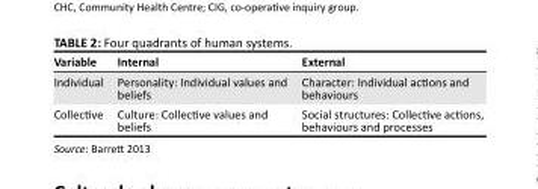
<table><thead><tr><td>Variable</td><td>Internal</td><td>External</td></tr></thead><tbody><tr><td>Individual</td><td>Personality: Individual values and beliefs</td><td>Character: Individual actions and behaviours</td></tr><tr><td>Collective</td><td>Culture: Collective values and beliefs</td><td>Social structures: Collective actions, behaviours and processes</td></tr></tbody></table>